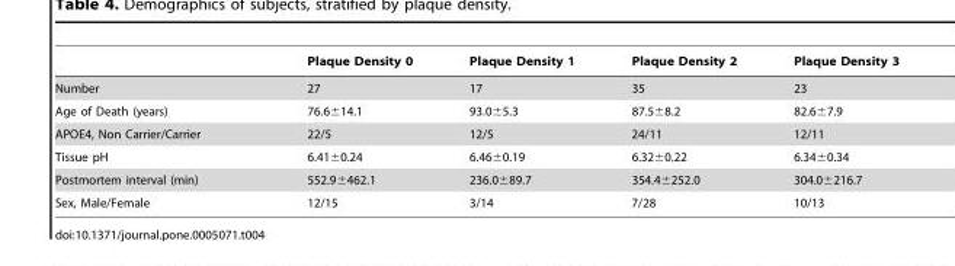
<table><thead><tr><td></td><td>Plaque Density 0</td><td>Plaque Density 1</td><td>Plaque Density 2</td><td>Plaque Density 3</td></tr></thead><tbody><tr><td>Number</td><td>27</td><td>17</td><td>35</td><td>23</td></tr><tr><td>Age of Death (years)</td><td>76.6±14.1</td><td>93.0±5.3</td><td>87.5±8.2</td><td>82.6±7.9</td></tr><tr><td>APOE4, Non Carrier/Carrier</td><td>22/5</td><td>12/5</td><td>24/11</td><td>12/11</td></tr><tr><td>Tissue pH</td><td>6.41±0.24</td><td>6.46±0.19</td><td>6.32±0.22</td><td>6.34±0.34</td></tr><tr><td>Postmortem interval (min)</td><td>552.9±462.1</td><td>236.0±89.7</td><td>354.4±252.0</td><td>304.0±216.7</td></tr><tr><td>Sex, Male/Female</td><td>12/15</td><td>3/14</td><td>7/28</td><td>10/13</td></tr></tbody></table>